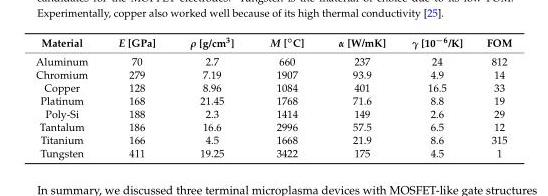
<table><thead><tr><td>Material</td><td>E [GPa]</td><td>ρ [g/cm<sup>3</sup>]</td><td>M [◦C]</td><td>α [W/mK]</td><td>γ [10<sup>−6</sup>/K]</td><td>FOM</td></tr></thead><tbody><tr><td>Aluminum</td><td>70</td><td>2.7</td><td>660</td><td>237</td><td>24</td><td>812</td></tr><tr><td>Chromium</td><td>279</td><td>7.19</td><td>1907</td><td>93.9</td><td>4.9</td><td>14</td></tr><tr><td>Copper</td><td>128</td><td>8.96</td><td>1084</td><td>401</td><td>16.5</td><td>33</td></tr><tr><td>Platinum</td><td>168</td><td>21.45</td><td>1768</td><td>71.6</td><td>8.8</td><td>19</td></tr><tr><td>Poly-Si</td><td>188</td><td>2.3</td><td>1414</td><td>149</td><td>2.6</td><td>29</td></tr><tr><td>Tantalum</td><td>186</td><td>16.6</td><td>2996</td><td>57.5</td><td>6.5</td><td>12</td></tr><tr><td>Titanium</td><td>166</td><td>4.5</td><td>1668</td><td>21.9</td><td>8.6</td><td>315</td></tr><tr><td>Tungsten</td><td>411</td><td>19.25</td><td>3422</td><td>175</td><td>4.5</td><td>1</td></tr></tbody></table>